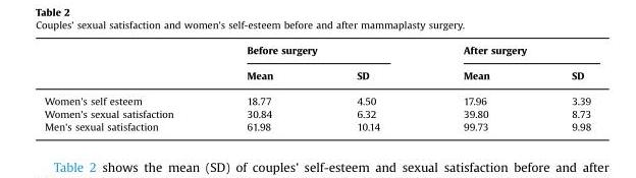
<table><thead><tr><td rowspan="2"></td><td colspan="2">Before surgery</td><td colspan="2">After surgery</td></tr><tr><td>Mean</td><td>SD</td><td>Mean</td><td>SD</td></tr></thead><tbody><tr><td>Women&#x27;s self esteem</td><td>18.77</td><td>4.50</td><td>17.96</td><td>3.39</td></tr><tr><td>Women&#x27;s sexual satisfaction</td><td>30.84</td><td>6.32</td><td>39.80</td><td>8.73</td></tr><tr><td>Men&#x27;s sexual satisfaction</td><td>61.98</td><td>10.14</td><td>99.73</td><td>9.98</td></tr></tbody></table>